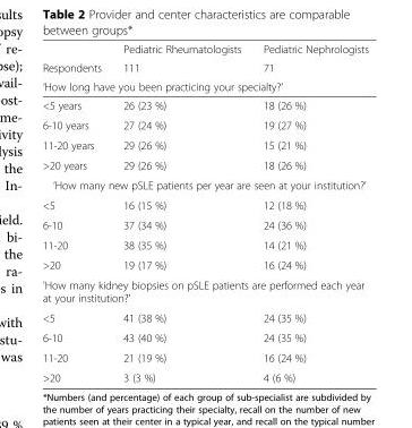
<table><thead><tr><td rowspan="2">Respondents</td><td rowspan="2">Pediatric Rheumatologists 111</td><td rowspan="2">Pediatric Nephrologists 71</td></tr><tr></tr><tr><td colspan="3">‘How long have you been practicing your specialty?’</td></tr></thead><tbody><tr><td>&lt;5 years</td><td>26 (23 %)</td><td>18 (26 %)</td></tr><tr><td>6-10 years</td><td>27 (24 %)</td><td>19 (27 %)</td></tr><tr><td>11-20 years</td><td>29 (26 %)</td><td>15 (21 %)</td></tr><tr><td>&gt;20 years</td><td>29 (26 %)</td><td>18 (26 %)</td></tr><tr><td colspan="3">‘How many new pSLE patients per year are seen at your institution?’</td></tr><tr><td>&lt;5</td><td>16 (15 %)</td><td>12 (18 %)</td></tr><tr><td>6-10</td><td>37 (34 %)</td><td>24 (36 %)</td></tr><tr><td>11-20</td><td>38 (35 %)</td><td>14 (21 %)</td></tr><tr><td>&gt;20</td><td>19 (17 %)</td><td>16 (24 %)</td></tr><tr><td colspan="3">&#x27;How many kidney biopsies on pSLE patients are performed each year at your institution?’</td></tr><tr><td>&lt;5</td><td>41 (38 %)</td><td>24 (35 %)</td></tr><tr><td>6-10</td><td>43 (40 %)</td><td>24 (35 %)</td></tr><tr><td>11-20</td><td>21 (19 %)</td><td>16 (24 %)</td></tr><tr><td>&gt;20</td><td>3 (3 %)</td><td>4 (6 %)</td></tr></tbody></table>